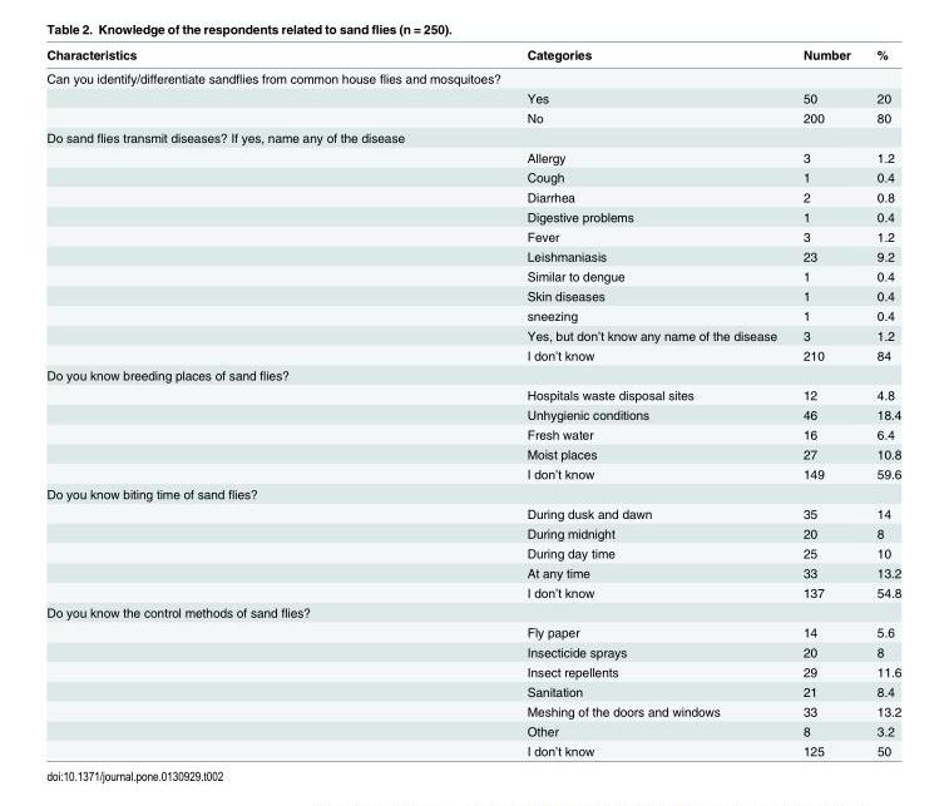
<table><thead><tr><td>Characteristics</td><td>Categories</td><td>Number</td><td>%</td></tr></thead><tbody><tr><td colspan="4">Can you identify/differentiate sandflies from common house flies and mosquitoes?</td></tr><tr><td></td><td>Yes</td><td>50</td><td>20</td></tr><tr><td></td><td>No</td><td>200</td><td>80</td></tr><tr><td colspan="4">Do sand flies transmit diseases? If yes, name any of the disease</td></tr><tr><td></td><td>Allergy</td><td>3</td><td>1.2</td></tr><tr><td></td><td>Cough</td><td>1</td><td>0.4</td></tr><tr><td></td><td>Diarrhea</td><td>2</td><td>0.8</td></tr><tr><td></td><td>Digestive problems</td><td>1</td><td>0.4</td></tr><tr><td></td><td>Fever</td><td>3</td><td>1.2</td></tr><tr><td></td><td>Leishmaniasis</td><td>23</td><td>9.2</td></tr><tr><td></td><td>Similar to dengue</td><td>1</td><td>0.4</td></tr><tr><td></td><td>Skin diseases</td><td>1</td><td>0.4</td></tr><tr><td></td><td>sneezing</td><td>1</td><td>0.4</td></tr><tr><td></td><td>Yes, but don’t know any name of the disease</td><td>3</td><td>1.2</td></tr><tr><td></td><td>I don’t know</td><td>210</td><td>84</td></tr><tr><td colspan="4">Do you know breeding places of sand flies?</td></tr><tr><td></td><td>Hospitals waste disposal sites</td><td>12</td><td>4.8</td></tr><tr><td></td><td>Unhygienic conditions</td><td>46</td><td>18.4</td></tr><tr><td></td><td>Fresh water</td><td>16</td><td>6.4</td></tr><tr><td></td><td>Moist places</td><td>27</td><td>10.8</td></tr><tr><td></td><td>I don’t know</td><td>149</td><td>59.6</td></tr><tr><td colspan="4">Do you know biting time of sand flies?</td></tr><tr><td></td><td>During dusk and dawn</td><td>35</td><td>14</td></tr><tr><td></td><td>During midnight</td><td>20</td><td>8</td></tr><tr><td></td><td>During day time</td><td>25</td><td>10</td></tr><tr><td></td><td>At any time</td><td>33</td><td>13.2</td></tr><tr><td></td><td>I don’t know</td><td>137</td><td>54.8</td></tr><tr><td colspan="4">Do you know the control methods of sand flies?</td></tr><tr><td></td><td>Fly paper</td><td>14</td><td>5.6</td></tr><tr><td></td><td>Insecticide sprays</td><td>20</td><td>8</td></tr><tr><td></td><td>Insect repellents</td><td>29</td><td>11.6</td></tr><tr><td></td><td>Sanitation</td><td>21</td><td>8.4</td></tr><tr><td></td><td>Meshing of the doors and windows</td><td>33</td><td>13.2</td></tr><tr><td></td><td>Other</td><td>8</td><td>3.2</td></tr><tr><td></td><td>I don’t know</td><td>125</td><td>50</td></tr></tbody></table>